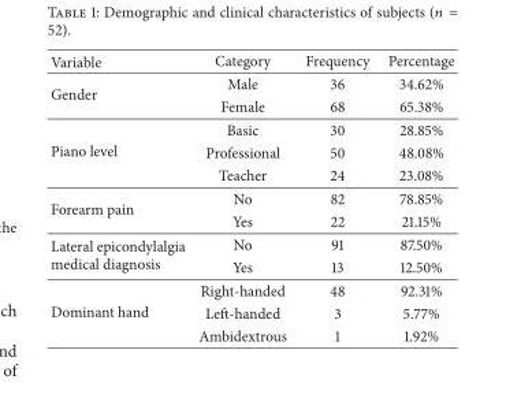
<table><thead><tr><td>Variable</td><td>Category</td><td>Frequency</td><td>Percentage</td></tr></thead><tbody><tr><td rowspan="2">Gender</td><td>Male</td><td>36</td><td>34.62%</td></tr><tr><td>Female</td><td>68</td><td>65.38%</td></tr><tr><td rowspan="3">Piano level</td><td>Basic</td><td>30</td><td>28.85%</td></tr><tr><td>Professional</td><td>50</td><td>48.08%</td></tr><tr><td>Teacher</td><td>24</td><td>23.08%</td></tr><tr><td rowspan="2">Forearm pain</td><td>No</td><td>82</td><td>78.85%</td></tr><tr><td>Yes</td><td>22</td><td>21.15%</td></tr><tr><td rowspan="2">Lateral epicondylalgia medical diagnosis</td><td>No</td><td>91</td><td>87.50%</td></tr><tr><td>Yes</td><td>13</td><td>12.50%</td></tr><tr><td rowspan="3">Dominant hand</td><td>Right-handed</td><td>48</td><td>92.31%</td></tr><tr><td>Left-handed</td><td>3</td><td>5.77%</td></tr><tr><td>Ambidextrous</td><td>1</td><td>1.92%</td></tr></tbody></table>